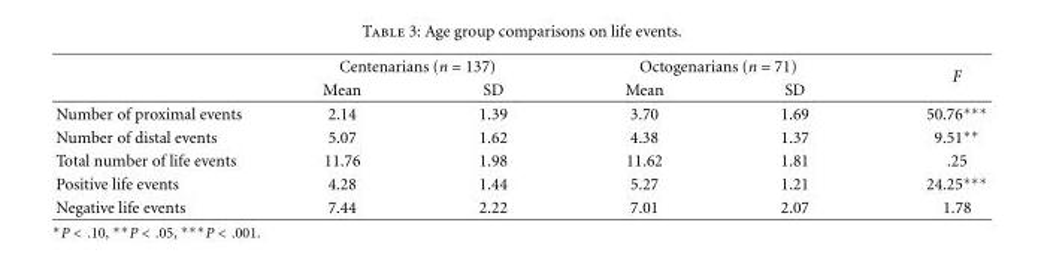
<table><thead><tr><td rowspan="2"></td><td colspan="2">Centenarians (n = 137)</td><td colspan="2">Octogenarians (n = 71)</td><td rowspan="2">F</td></tr><tr><td>Mean</td><td>SD</td><td>Mean</td><td>SD</td></tr></thead><tbody><tr><td>Number of proximal events</td><td>2.14</td><td>1.39</td><td>3.70</td><td>1.69</td><td>50.76∗∗∗</td></tr><tr><td>Number of distal events</td><td>5.07</td><td>1.62</td><td>4.38</td><td>1.37</td><td>9.51∗∗</td></tr><tr><td>Total number of life events</td><td>11.76</td><td>1.98</td><td>11.62</td><td>1.81</td><td>.25</td></tr><tr><td>Positive life events</td><td>4.28</td><td>1.44</td><td>5.27</td><td>1.21</td><td>24.25∗∗∗</td></tr><tr><td>Negative life events</td><td>7.44</td><td>2.22</td><td>7.01</td><td>2.07</td><td>1.78</td></tr></tbody></table>